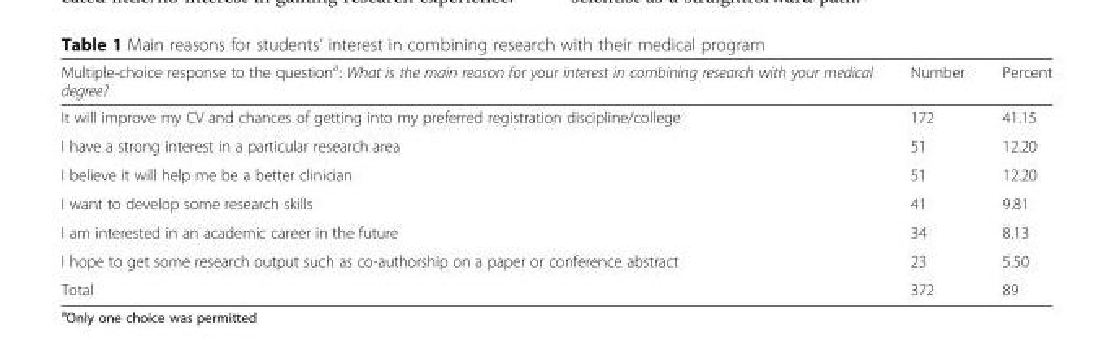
<table><thead><tr><td>Multiple-choice response to the question<sup>a</sup>: What is the main reason for your interest in combining research with your medical degree?</td><td>Number</td><td>Percent</td></tr></thead><tbody><tr><td>It will improve my CV and chances of getting into my preferred registration discipline/college</td><td>172</td><td>41.15</td></tr><tr><td>I have a strong interest in a particular research area</td><td>51</td><td>12.20</td></tr><tr><td>I believe it will help me be a better clinician</td><td>51</td><td>12.20</td></tr><tr><td>I want to develop some research skills</td><td>41</td><td>9.81</td></tr><tr><td>I am interested in an academic career in the future</td><td>34</td><td>8.13</td></tr><tr><td>I hope to get some research output such as co-authorship on a paper or conference abstract</td><td>23</td><td>5.50</td></tr><tr><td>Total</td><td>372</td><td>89</td></tr></tbody></table>